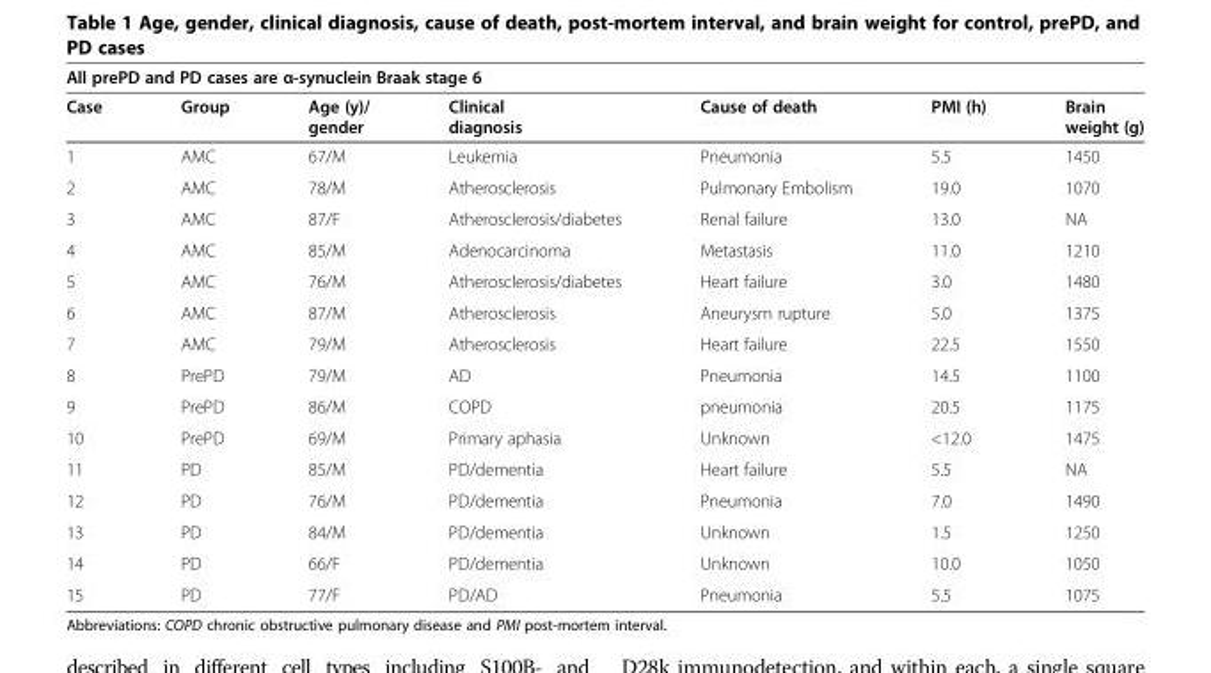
<table><thead><tr><td colspan="7">All prePD and PD cases are α-synuclein Braak stage 6</td></tr><tr><td>Case</td><td>Group</td><td>Age (y)/ gender</td><td>Clinical diagnosis</td><td>Cause of death</td><td>PMI (h)</td><td>Brain weight (g)</td></tr></thead><tbody><tr><td>1</td><td>AMC</td><td>67/M</td><td>Leukemia</td><td>Pneumonia</td><td>5.5</td><td>1450</td></tr><tr><td>2</td><td>AMC</td><td>78/M</td><td>Atherosclerosis</td><td>Pulmonary Embolism</td><td>19.0</td><td>1070</td></tr><tr><td>3</td><td>AMC</td><td>87/F</td><td>Atherosclerosis/diabetes</td><td>Renal failure</td><td>13.0</td><td>NA</td></tr><tr><td>4</td><td>AMC</td><td>85/M</td><td>Adenocarcinoma</td><td>Metastasis</td><td>11.0</td><td>1210</td></tr><tr><td>5</td><td>AMC</td><td>76/M</td><td>Atherosclerosis/diabetes</td><td>Heart failure</td><td>3.0</td><td>1480</td></tr><tr><td>6</td><td>AMC</td><td>87/M</td><td>Atherosclerosis</td><td>Aneurysm rupture</td><td>5.0</td><td>1375</td></tr><tr><td>7</td><td>AMC</td><td>79/M</td><td>Atherosclerosis</td><td>Heart failure</td><td>22.5</td><td>1550</td></tr><tr><td>8</td><td>PrePD</td><td>79/M</td><td>AD</td><td>Pneumonia</td><td>14.5</td><td>1100</td></tr><tr><td>9</td><td>PrePD</td><td>86/M</td><td>COPD</td><td>pneumonia</td><td>20.5</td><td>1175</td></tr><tr><td>10</td><td>PrePD</td><td>69/M</td><td>Primary aphasia</td><td>Unknown</td><td>&lt;12.0</td><td>1475</td></tr><tr><td>11</td><td>PD</td><td>85/M</td><td>PD/dementia</td><td>Heart failure</td><td>5.5</td><td>NA</td></tr><tr><td>12</td><td>PD</td><td>76/M</td><td>PD/dementia</td><td>Pneumonia</td><td>7.0</td><td>1490</td></tr><tr><td>13</td><td>PD</td><td>84/M</td><td>PD/dementia</td><td>Unknown</td><td>1.5</td><td>1250</td></tr><tr><td>14</td><td>PD</td><td>66/F</td><td>PD/dementia</td><td>Unknown</td><td>10.0</td><td>1050</td></tr><tr><td>15</td><td>PD</td><td>77/F</td><td>PD/AD</td><td>Pneumonia</td><td>5.5</td><td>1075</td></tr></tbody></table>